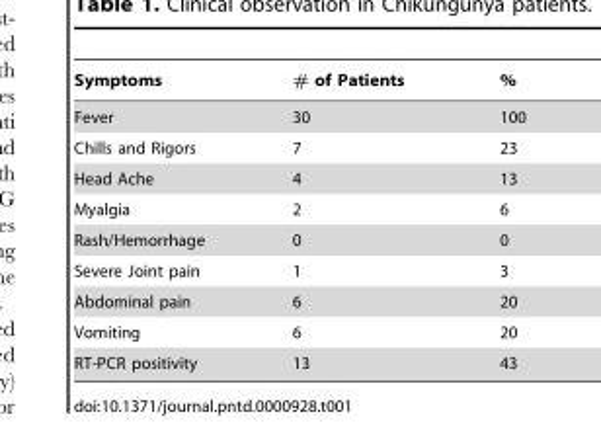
<table><thead><tr><td>Symptoms</td><td># of Patients</td><td>%</td></tr></thead><tbody><tr><td>Fever</td><td>30</td><td>100</td></tr><tr><td>Chills and Rigors</td><td>7</td><td>23</td></tr><tr><td>Head Ache</td><td>4</td><td>13</td></tr><tr><td>Myalgia</td><td>2</td><td>6</td></tr><tr><td>Rash/Hemorrhage</td><td>0</td><td>0</td></tr><tr><td>Severe Joint pain</td><td>1</td><td>3</td></tr><tr><td>Abdominal pain</td><td>6</td><td>20</td></tr><tr><td>Vomiting</td><td>6</td><td>20</td></tr><tr><td>RT-PCR positivity</td><td>13</td><td>43</td></tr></tbody></table>